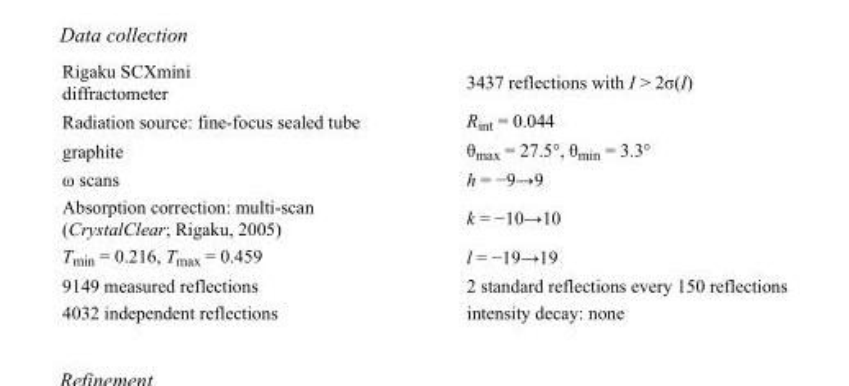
<table><tbody><tr><td>Rigaku SCXmini diffractometer</td><td>3437 reflections with I &gt; 2σ(I)</td></tr><tr><td>Radiation source: fine-focus sealed tube</td><td>R<sub>int</sub> = 0.044</td></tr><tr><td>graphite</td><td>θ<sub>max</sub> = 27.5°, θ<sub>min</sub> = 3.3°</td></tr><tr><td>ω scans</td><td>h = −9→9</td></tr><tr><td>Absorption correction: multi-scan (CrystalClear; Rigaku, 2005)</td><td>k = −10→10</td></tr><tr><td>T<sub>min</sub> = 0.216, T<sub>max</sub> = 0.459</td><td>l = −19→19</td></tr><tr><td>9149 measured reflections</td><td>2 standard reflections every 150 reflections</td></tr><tr><td>4032 independent reflections</td><td>intensity decay: none</td></tr></tbody></table>